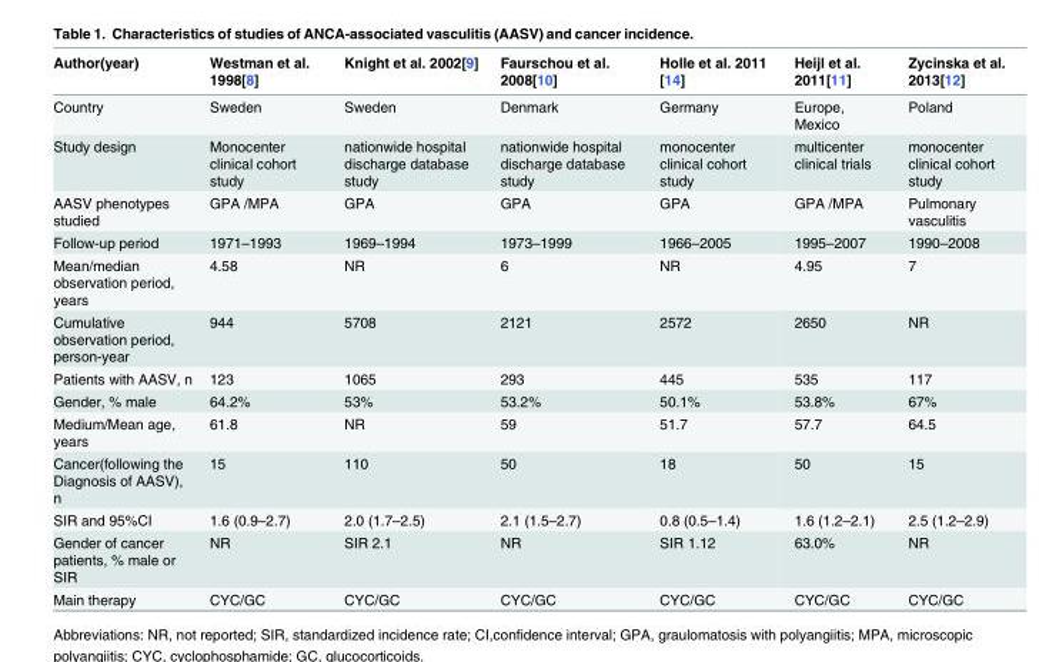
<table><thead><tr><td>Author(year)</td><td>Westman et al. 1998[8]</td><td>Knight et al. 2002[9]</td><td>Faurschou et al. 2008[10]</td><td>Holle et al. 2011 [14]</td><td>Heijl et al. 2011[11]</td><td>Zycinska et al. 2013[12]</td></tr></thead><tbody><tr><td>Country</td><td>Sweden</td><td>Sweden</td><td>Denmark</td><td>Germany</td><td>Europe, Mexico</td><td>Poland</td></tr><tr><td>Study design</td><td>Monocenter clinical cohort study</td><td>nationwide hospital discharge database study</td><td>nationwide hospital discharge database study</td><td>monocenter clinical cohort study</td><td>multicenter clinical trials</td><td>monocenter clinical cohort study</td></tr><tr><td>AASV phenotypes studied</td><td>GPA /MPA</td><td>GPA</td><td>GPA</td><td>GPA</td><td>GPA /MPA</td><td>Pulmonary vasculitis</td></tr><tr><td>Follow-up period</td><td>1971–1993</td><td>1969–1994</td><td>1973–1999</td><td>1966–2005</td><td>1995–2007</td><td>1990–2008</td></tr><tr><td>Mean/median observation period, years</td><td>4.58</td><td>NR</td><td>6</td><td>NR</td><td>4.95</td><td>7</td></tr><tr><td>Cumulative observation period, person-year</td><td>944</td><td>5708</td><td>2121</td><td>2572</td><td>2650</td><td>NR</td></tr><tr><td>Patients with AASV, n</td><td>123</td><td>1065</td><td>293</td><td>445</td><td>535</td><td>117</td></tr><tr><td>Gender, % male</td><td>64.2%</td><td>53%</td><td>53.2%</td><td>50.1%</td><td>53.8%</td><td>67%</td></tr><tr><td>Medium/Mean age, years</td><td>61.8</td><td>NR</td><td>59</td><td>51.7</td><td>57.7</td><td>64.5</td></tr><tr><td>Cancer(following the Diagnosis of AASV), n</td><td>15</td><td>110</td><td>50</td><td>18</td><td>50</td><td>15</td></tr><tr><td>SIR and 95%CI</td><td>1.6 (0.9–2.7)</td><td>2.0 (1.7–2.5)</td><td>2.1 (1.5–2.7)</td><td>0.8 (0.5–1.4)</td><td>1.6 (1.2–2.1)</td><td>2.5 (1.2–2.9)</td></tr><tr><td>Gender of cancer patients, % male or SIR</td><td>NR</td><td>SIR 2.1</td><td>NR</td><td>SIR 1.12</td><td>63.0%</td><td>NR</td></tr><tr><td>Main therapy</td><td>CYC/GC</td><td>CYC/GC</td><td>CYC/GC</td><td>CYC/GC</td><td>CYC/GC</td><td>CYC/GC</td></tr></tbody></table>